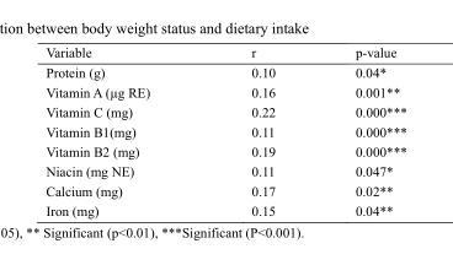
<table><thead><tr><td>Variable</td><td>r</td><td>p-value</td></tr></thead><tbody><tr><td>Protein (g)</td><td>0.10</td><td>0.04*</td></tr><tr><td>Vitamin A (µg RE)</td><td>0.16</td><td>0.001**</td></tr><tr><td>Vitamin C (mg)</td><td>0.22</td><td>0.000***</td></tr><tr><td>Vitamin B1(mg)</td><td>0.11</td><td>0.000***</td></tr><tr><td>Vitamin B2 (mg)</td><td>0.19</td><td>0.000***</td></tr><tr><td>Niacin (mg NE)</td><td>0.11</td><td>0.047*</td></tr><tr><td>Calcium (mg)</td><td>0.17</td><td>0.02**</td></tr><tr><td>Iron (mg)</td><td>0.15</td><td>0.04**</td></tr></tbody></table>